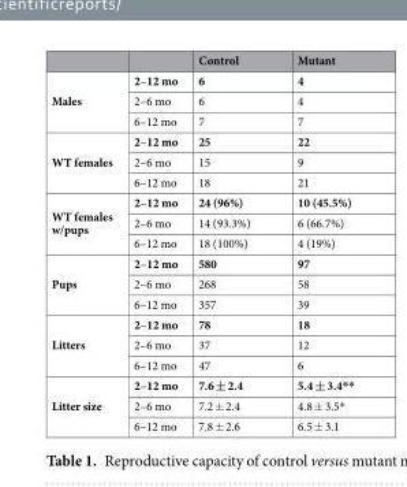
<table><thead><tr><td></td><td></td><td>Control</td><td>Mutant</td></tr></thead><tbody><tr><td rowspan="3">Males</td><td>2–12 mo</td><td>6</td><td>4</td></tr><tr><td>2–6 mo</td><td>6</td><td>4</td></tr><tr><td>6–12 mo</td><td>7</td><td>7</td></tr><tr><td rowspan="3">WT females</td><td>2–12 mo</td><td>25</td><td>22</td></tr><tr><td>2–6 mo</td><td>15</td><td>9</td></tr><tr><td>6–12 mo</td><td>18</td><td>21</td></tr><tr><td rowspan="3">WT females w/pups</td><td>2–12 mo</td><td>24 (96%)</td><td>10 (45.5%)</td></tr><tr><td>2–6 mo</td><td>14 (93.3%)</td><td>6 (66.7%)</td></tr><tr><td>6–12 mo</td><td>18 (100%)</td><td>4 (19%)</td></tr><tr><td rowspan="3">Pups</td><td>2–12 mo</td><td>580</td><td>97</td></tr><tr><td>2–6 mo</td><td>268</td><td>58</td></tr><tr><td>6–12 mo</td><td>357</td><td>39</td></tr><tr><td rowspan="3">Litters</td><td>2–12 mo</td><td>78</td><td>18</td></tr><tr><td>2–6 mo</td><td>37</td><td>12</td></tr><tr><td>6–12 mo</td><td>47</td><td>6</td></tr><tr><td rowspan="3">Litter size</td><td>2–12 mo</td><td>7.6 ± 2.4</td><td>5.4 ± 3.4**</td></tr><tr><td>2–6 mo</td><td>7.2 ± 2.4</td><td>4.8 ± 3.5*</td></tr><tr><td>6–12 mo</td><td>7.8 ± 2.6</td><td>6.5 ± 3.1</td></tr></tbody></table>